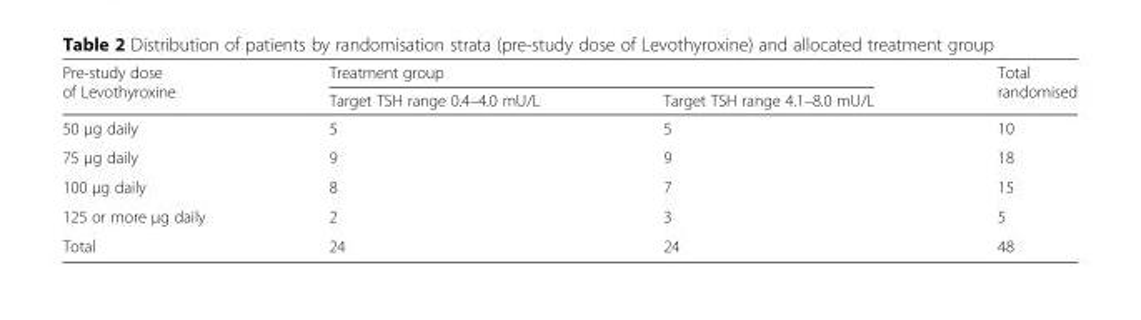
<table><thead><tr><td rowspan="2">Pre-study dose of Levothyroxine</td><td colspan="2">Treatment group</td><td rowspan="2">Total randomised</td></tr><tr><td>Target TSH range 0.4–4.0 mU/L</td><td>Target TSH range 4.1–8.0 mU/L</td></tr></thead><tbody><tr><td>50 μg daily</td><td>5</td><td>5</td><td>10</td></tr><tr><td>75 μg daily</td><td>9</td><td>9</td><td>18</td></tr><tr><td>100 μg daily</td><td>8</td><td>7</td><td>15</td></tr><tr><td>125 or more μg daily</td><td>2</td><td>3</td><td>5</td></tr><tr><td>Total</td><td>24</td><td>24</td><td>48</td></tr></tbody></table>